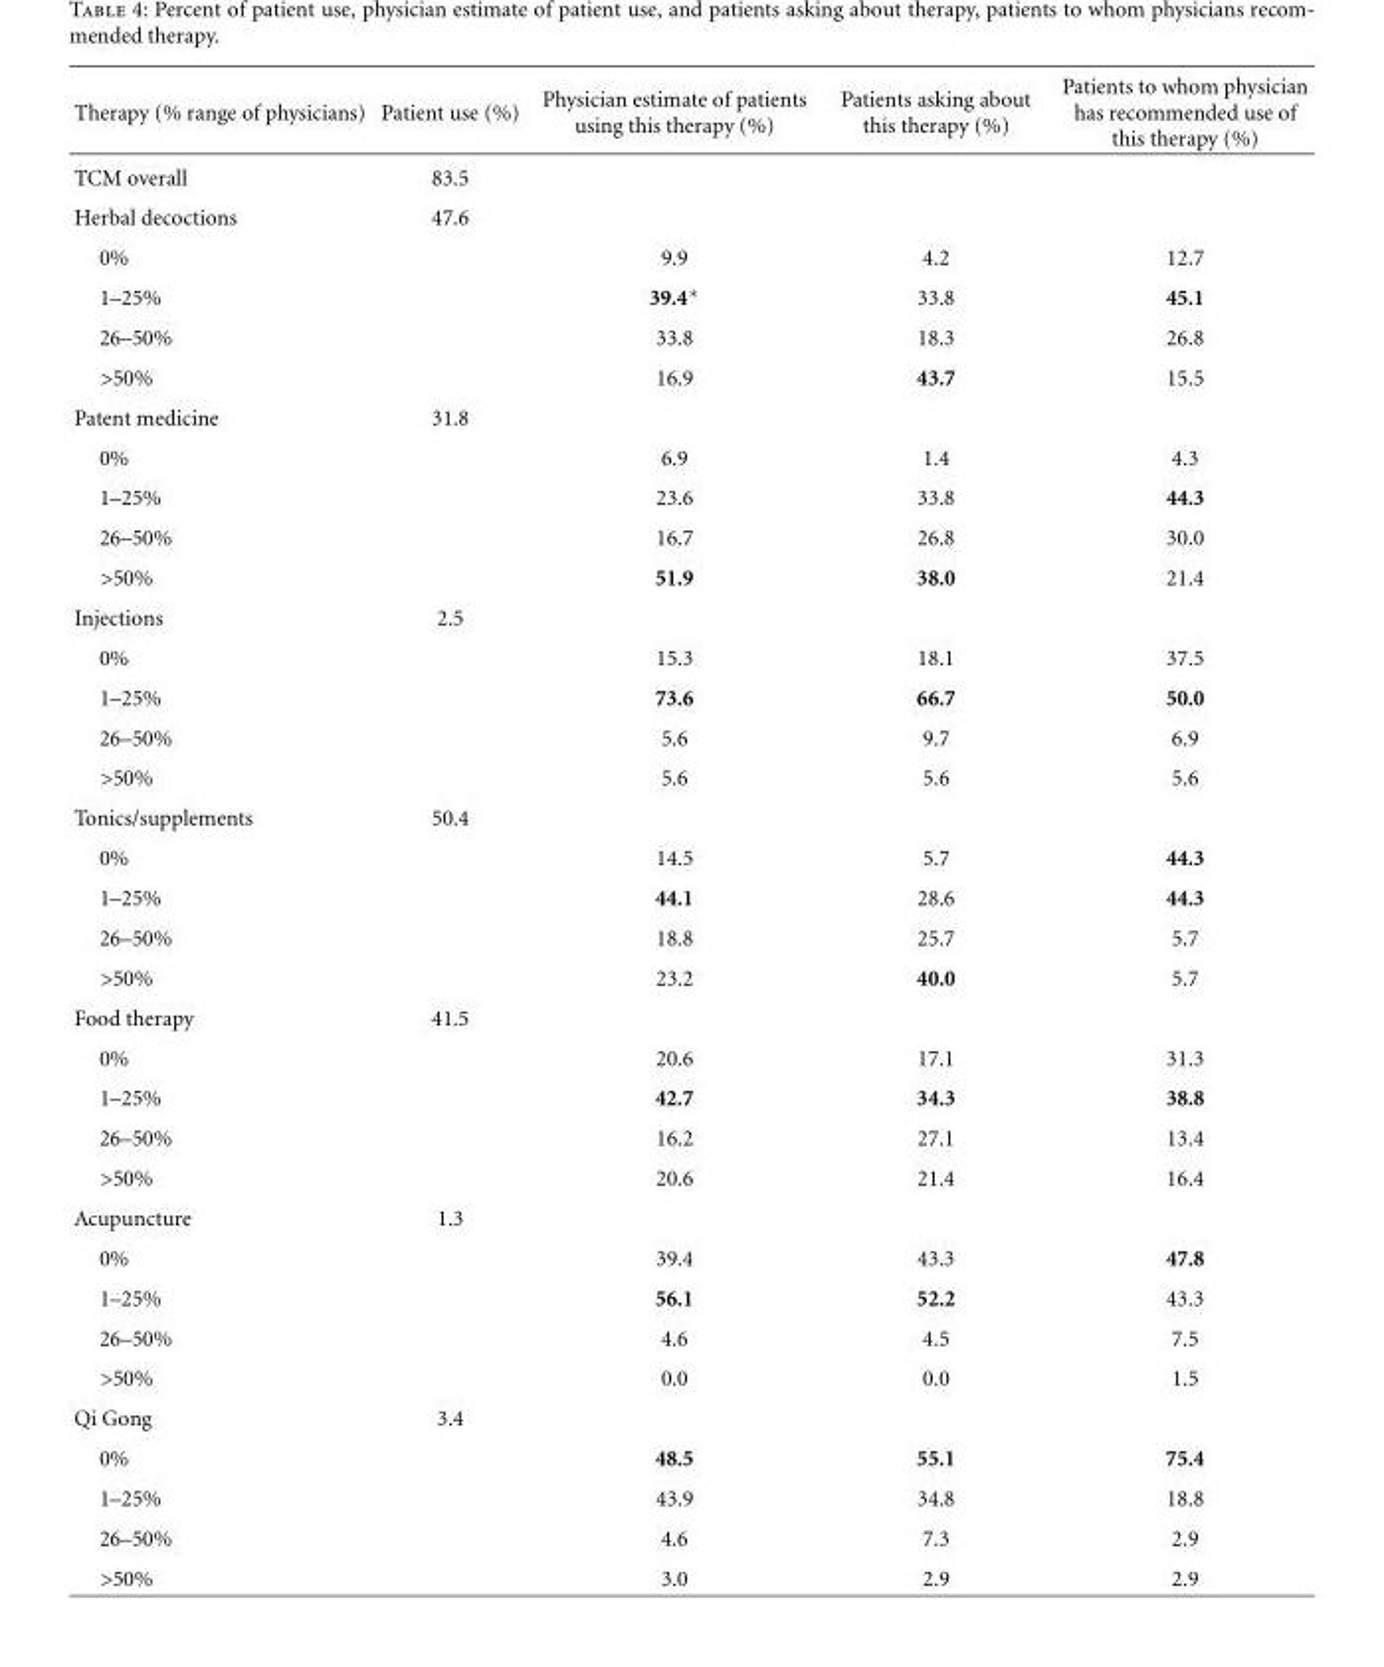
<table><thead><tr><td>Therapy (% range of physicians)</td><td>Patient use (%)</td><td>Physician estimate of patients using this therapy (%)</td><td>Patients asking about this therapy (%)</td><td>Patients to whom physician has recommended use of this therapy (%)</td></tr></thead><tbody><tr><td>TCM overall</td><td>83.5</td><td></td><td></td><td></td></tr><tr><td>Herbal decoctions</td><td>47.6</td><td></td><td></td><td></td></tr><tr><td>0%</td><td></td><td>9.9</td><td>4.2</td><td>12.7</td></tr><tr><td>1–25%</td><td></td><td>39.4∗</td><td>33.8</td><td>45.1</td></tr><tr><td>26–50%</td><td></td><td>33.8</td><td>18.3</td><td>26.8</td></tr><tr><td>&gt;50%</td><td></td><td>16.9</td><td>43.7</td><td>15.5</td></tr><tr><td>Patent medicine</td><td>31.8</td><td></td><td></td><td></td></tr><tr><td>0%</td><td></td><td>6.9</td><td>1.4</td><td>4.3</td></tr><tr><td>1–25%</td><td></td><td>23.6</td><td>33.8</td><td>44.3</td></tr><tr><td>26–50%</td><td></td><td>16.7</td><td>26.8</td><td>30.0</td></tr><tr><td>&gt;50%</td><td></td><td>51.9</td><td>38.0</td><td>21.4</td></tr><tr><td>Injections</td><td>2.5</td><td></td><td></td><td></td></tr><tr><td>0%</td><td></td><td>15.3</td><td>18.1</td><td>37.5</td></tr><tr><td>1–25%</td><td></td><td>73.6</td><td>66.7</td><td>50.0</td></tr><tr><td>26–50%</td><td></td><td>5.6</td><td>9.7</td><td>6.9</td></tr><tr><td>&gt;50%</td><td></td><td>5.6</td><td>5.6</td><td>5.6</td></tr><tr><td>Tonics/supplements</td><td>50.4</td><td></td><td></td><td></td></tr><tr><td>0%</td><td></td><td>14.5</td><td>5.7</td><td>44.3</td></tr><tr><td>1–25%</td><td></td><td>44.1</td><td>28.6</td><td>44.3</td></tr><tr><td>26–50%</td><td></td><td>18.8</td><td>25.7</td><td>5.7</td></tr><tr><td>&gt;50%</td><td></td><td>23.2</td><td>40.0</td><td>5.7</td></tr><tr><td>Food therapy</td><td>41.5</td><td></td><td></td><td></td></tr><tr><td>0%</td><td></td><td>20.6</td><td>17.1</td><td>31.3</td></tr><tr><td>1–25%</td><td></td><td>42.7</td><td>34.3</td><td>38.8</td></tr><tr><td>26–50%</td><td></td><td>16.2</td><td>27.1</td><td>13.4</td></tr><tr><td>&gt;50%</td><td></td><td>20.6</td><td>21.4</td><td>16.4</td></tr><tr><td>Acupuncture</td><td>1.3</td><td></td><td></td><td></td></tr><tr><td>0%</td><td></td><td>39.4</td><td>43.3</td><td>47.8</td></tr><tr><td>1–25%</td><td></td><td>56.1</td><td>52.2</td><td>43.3</td></tr><tr><td>26–50%</td><td></td><td>4.6</td><td>4.5</td><td>7.5</td></tr><tr><td>&gt;50%</td><td></td><td>0.0</td><td>0.0</td><td>1.5</td></tr><tr><td>Qi Gong</td><td>3.4</td><td></td><td></td><td></td></tr><tr><td>0%</td><td></td><td>48.5</td><td>55.1</td><td>75.4</td></tr><tr><td>1–25%</td><td></td><td>43.9</td><td>34.8</td><td>18.8</td></tr><tr><td>26–50%</td><td></td><td>4.6</td><td>7.3</td><td>2.9</td></tr><tr><td>&gt;50%</td><td></td><td>3.0</td><td>2.9</td><td>2.9</td></tr></tbody></table>